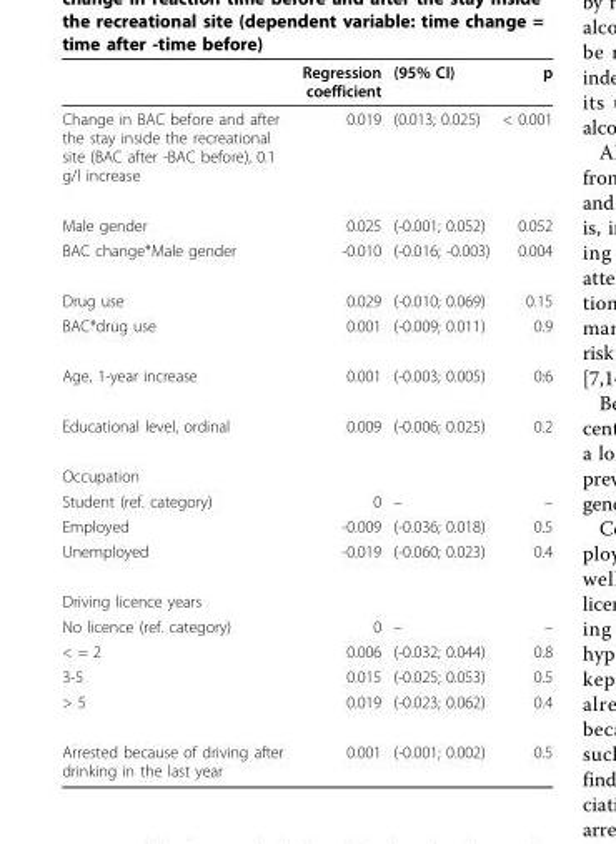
<table><thead><tr><td></td><td>Regression coefficient</td><td>(95% CI)</td><td>p</td></tr></thead><tbody><tr><td>Change in BAC before and after the stay inside the recreational site (BAC after -BAC before), 0.1 g/l increase</td><td>0.019</td><td>(0.013; 0.025)</td><td>&lt; 0.001</td></tr><tr><td>Male gender</td><td>0.025</td><td>(-0.001; 0.052)</td><td>0.052</td></tr><tr><td>BAC change*Male gender</td><td>-0.010</td><td>(-0.016; -0.003)</td><td>0.004</td></tr><tr><td>Drug use</td><td>0.029</td><td>(-0.010; 0.069)</td><td>0.15</td></tr><tr><td>BAC*drug use</td><td>0.001</td><td>(-0.009; 0.011)</td><td>0.9</td></tr><tr><td>Age, 1-year increase</td><td>0.001</td><td>(-0.003; 0.005)</td><td>0:6</td></tr><tr><td>Educational level, ordinal</td><td>0.009</td><td>(-0.006; 0.025)</td><td>0.2</td></tr><tr><td colspan="4">Occupation</td></tr><tr><td>Student (ref. category)</td><td>0</td><td>–</td><td>–</td></tr><tr><td>Employed</td><td>-0.009</td><td>(-0.036; 0.018)</td><td>0.5</td></tr><tr><td>Unemployed</td><td>-0.019</td><td>(-0.060; 0.023)</td><td>0.4</td></tr><tr><td colspan="4">Driving licence years</td></tr><tr><td>No licence (ref. category)</td><td>0</td><td>–</td><td>–</td></tr><tr><td>&lt; = 2</td><td>0.006</td><td>(-0.032; 0.044)</td><td>0.8</td></tr><tr><td>3-5</td><td>0.015</td><td>(-0.025; 0.053)</td><td>0.5</td></tr><tr><td>&gt; 5</td><td>0.019</td><td>(-0.023; 0.062)</td><td>0.4</td></tr><tr><td>Arrested because of driving after drinking in the last year</td><td>0.001</td><td>(-0.001; 0.002)</td><td>0.5</td></tr></tbody></table>